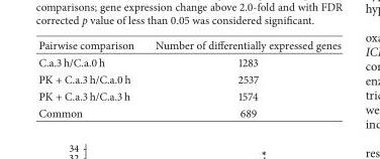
<table><thead><tr><td>Pairwise comparison</td><td>Number of differentially expressed genes</td></tr></thead><tbody><tr><td>C.a.3 h/C.a.0 h</td><td>1283</td></tr><tr><td>PK + C.a.3 h/C.a.0 h</td><td>2537</td></tr><tr><td>PK + C.a.3 h/C.a.3 h</td><td>1574</td></tr><tr><td>Common</td><td>689</td></tr></tbody></table>